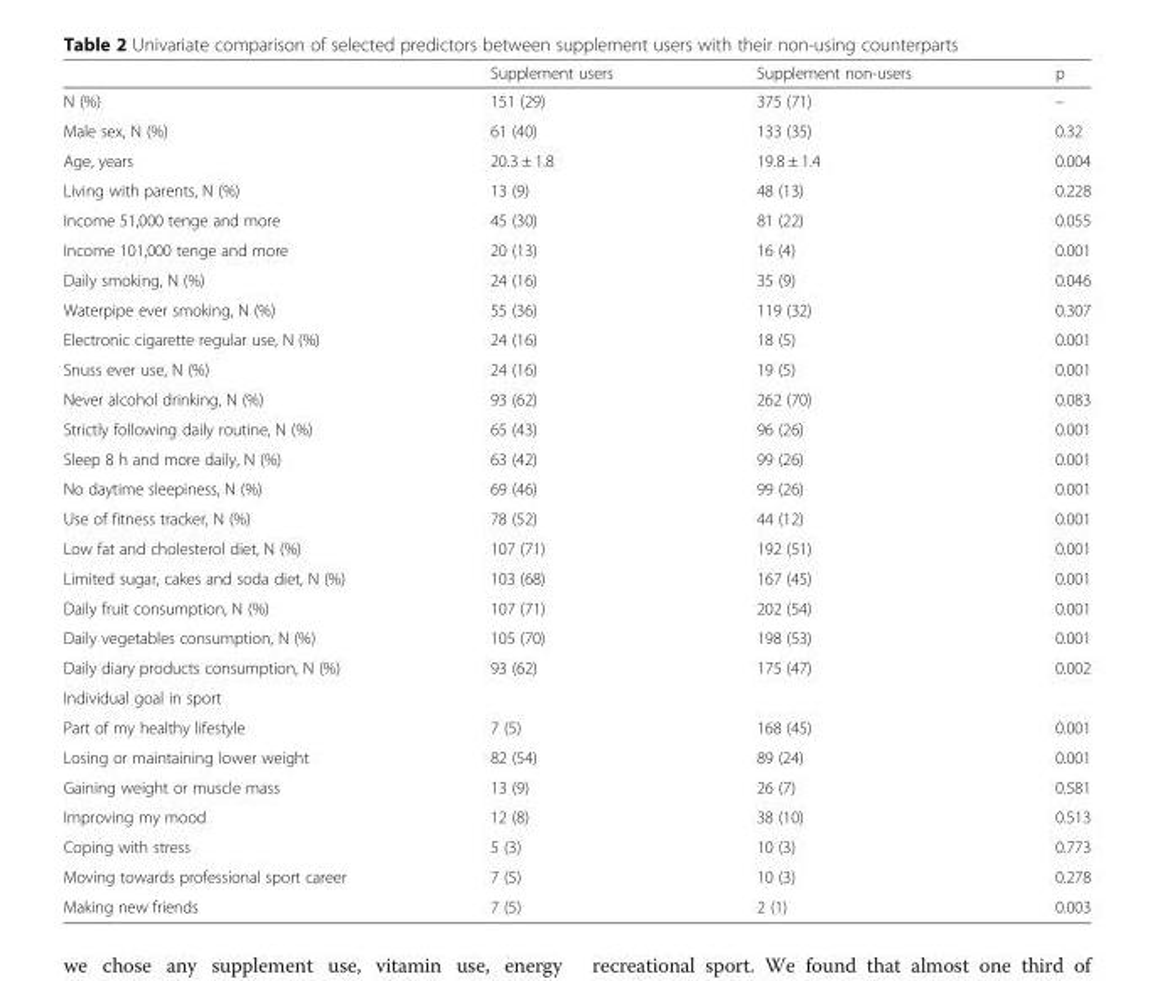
<table><thead><tr><td></td><td>Supplement users</td><td>Supplement non-users</td><td>p</td></tr></thead><tbody><tr><td>N (%)</td><td>151 (29)</td><td>375 (71)</td><td>–</td></tr><tr><td>Male sex, N (%)</td><td>61 (40)</td><td>133 (35)</td><td>0.32</td></tr><tr><td>Age, years</td><td>20.3 ± 1.8</td><td>19.8 ± 1.4</td><td>0.004</td></tr><tr><td>Living with parents, N (%)</td><td>13 (9)</td><td>48 (13)</td><td>0.228</td></tr><tr><td>Income 51,000 tenge and more</td><td>45 (30)</td><td>81 (22)</td><td>0.055</td></tr><tr><td>Income 101,000 tenge and more</td><td>20 (13)</td><td>16 (4)</td><td>0.001</td></tr><tr><td>Daily smoking, N (%)</td><td>24 (16)</td><td>35 (9)</td><td>0.046</td></tr><tr><td>Waterpipe ever smoking, N (%)</td><td>55 (36)</td><td>119 (32)</td><td>0.307</td></tr><tr><td>Electronic cigarette regular use, N (%)</td><td>24 (16)</td><td>18 (5)</td><td>0.001</td></tr><tr><td>Snuss ever use, N (%)</td><td>24 (16)</td><td>19 (5)</td><td>0.001</td></tr><tr><td>Never alcohol drinking, N (%)</td><td>93 (62)</td><td>262 (70)</td><td>0.083</td></tr><tr><td>Strictly following daily routine, N (%)</td><td>65 (43)</td><td>96 (26)</td><td>0.001</td></tr><tr><td>Sleep 8 h and more daily, N (%)</td><td>63 (42)</td><td>99 (26)</td><td>0.001</td></tr><tr><td>No daytime sleepiness, N (%)</td><td>69 (46)</td><td>99 (26)</td><td>0.001</td></tr><tr><td>Use of fitness tracker, N (%)</td><td>78 (52)</td><td>44 (12)</td><td>0.001</td></tr><tr><td>Low fat and cholesterol diet, N (%)</td><td>107 (71)</td><td>192 (51)</td><td>0.001</td></tr><tr><td>Limited sugar, cakes and soda diet, N (%)</td><td>103 (68)</td><td>167 (45)</td><td>0.001</td></tr><tr><td>Daily fruit consumption, N (%)</td><td>107 (71)</td><td>202 (54)</td><td>0.001</td></tr><tr><td>Daily vegetables consumption, N (%)</td><td>105 (70)</td><td>198 (53)</td><td>0.001</td></tr><tr><td>Daily diary products consumption, N (%)</td><td>93 (62)</td><td>175 (47)</td><td>0.002</td></tr><tr><td colspan="4">Individual goal in sport</td></tr><tr><td>Part of my healthy lifestyle</td><td>7 (5)</td><td>168 (45)</td><td>0.001</td></tr><tr><td>Losing or maintaining lower weight</td><td>82 (54)</td><td>89 (24)</td><td>0.001</td></tr><tr><td>Gaining weight or muscle mass</td><td>13 (9)</td><td>26 (7)</td><td>0.581</td></tr><tr><td>Improving my mood</td><td>12 (8)</td><td>38 (10)</td><td>0.513</td></tr><tr><td>Coping with stress</td><td>5 (3)</td><td>10 (3)</td><td>0.773</td></tr><tr><td>Moving towards professional sport career</td><td>7 (5)</td><td>10 (3)</td><td>0.278</td></tr><tr><td>Making new friends</td><td>7 (5)</td><td>2 (1)</td><td>0.003</td></tr></tbody></table>